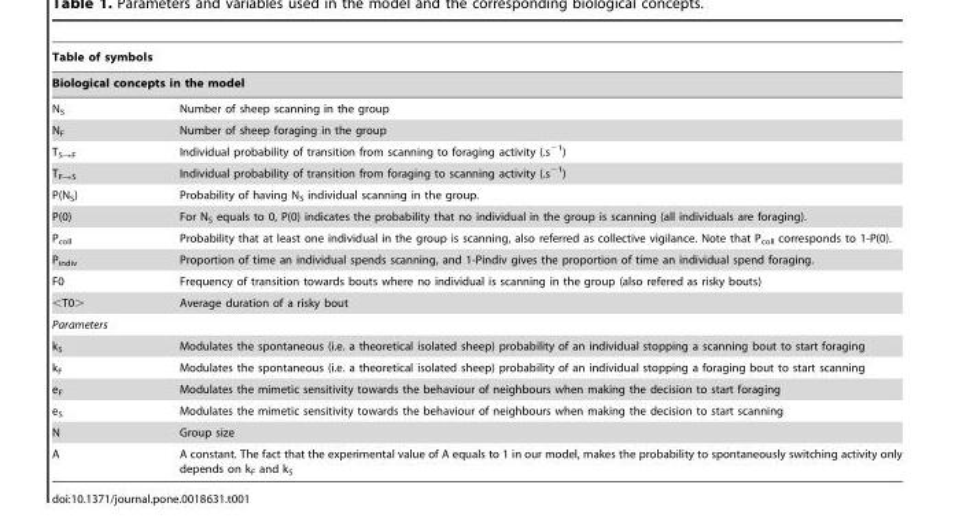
<table><thead><tr><td rowspan="2" colspan="2">Table of symbols Biological concepts in the model</td></tr><tr></tr><tr><td>N<sub>S</sub></td><td>Number of sheep scanning in the group</td></tr></thead><tbody><tr><td>N<sub>F</sub></td><td>Number of sheep foraging in the group</td></tr><tr><td>T<sub>S→F</sub></td><td>Individual probability of transition from scanning to foraging activity (.s<sup>−1</sup>)</td></tr><tr><td>T<sub>F→S</sub></td><td>Individual probability of transition from foraging to scanning activity (.s<sup>−1</sup>)</td></tr><tr><td>P(N<sub>S</sub>)</td><td>Probability of having N<sub>S</sub> individual scanning in the group.</td></tr><tr><td>P(0)</td><td>For N<sub>S</sub> equals to 0, P(0) indicates the probability that no individual in the group is scanning (all individuals are foraging).</td></tr><tr><td>P<sub>coll</sub></td><td>Probability that at least one individual in the group is scanning, also referred as collective vigilance. Note that P<sub>coll</sub> corresponds to 1-P(0).</td></tr><tr><td>P<sub>indiv</sub></td><td>Proportion of time an individual spends scanning, and 1-Pindiv gives the proportion of time an individual spend foraging.</td></tr><tr><td>F0</td><td>Frequency of transition towards bouts where no individual is scanning in the group (also refered as risky bouts)</td></tr><tr><td>&lt;T0&gt;</td><td>Average duration of a risky bout</td></tr><tr><td colspan="2">Parameters</td></tr><tr><td>k<sub>S</sub></td><td>Modulates the spontaneous (i.e. a theoretical isolated sheep) probability of an individual stopping a scanning bout to start foraging</td></tr><tr><td>k<sub>F</sub></td><td>Modulates the spontaneous (i.e. a theoretical isolated sheep) probability of an individual stopping a foraging bout to start scanning</td></tr><tr><td>e<sub>F</sub></td><td>Modulates the mimetic sensitivity towards the behaviour of neighbours when making the decision to start foraging</td></tr><tr><td>e<sub>S</sub></td><td>Modulates the mimetic sensitivity towards the behaviour of neighbours when making the decision to start scanning</td></tr><tr><td>N</td><td>Group size</td></tr><tr><td>A</td><td>A constant. The fact that the experimental value of A equals to 1 in our model, makes the probability to spontaneously switching activity only depends on k<sub>F</sub> and k<sub>S</sub></td></tr></tbody></table>